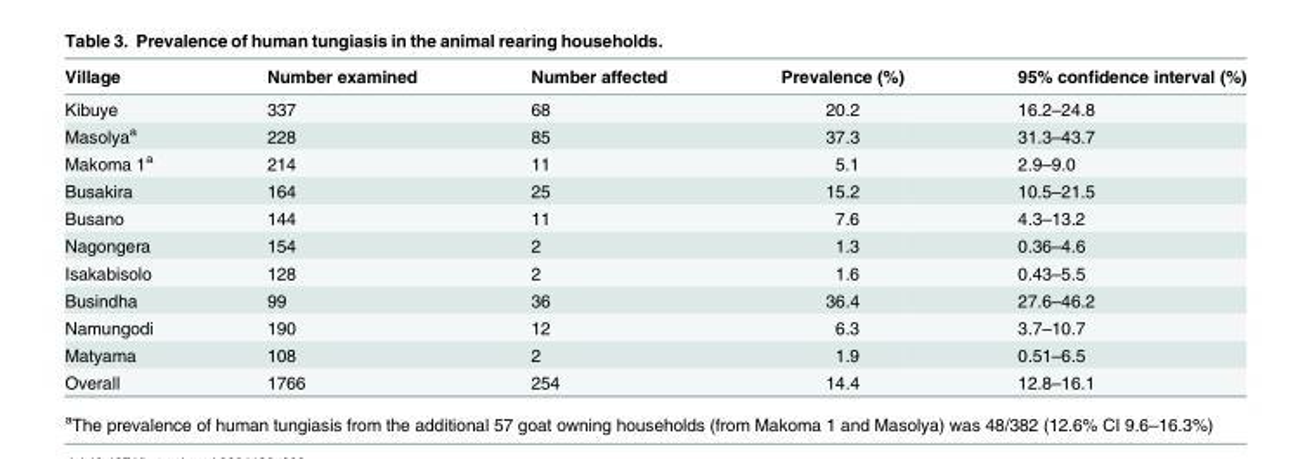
<table><thead><tr><td>Village</td><td>Number examined</td><td>Number affected</td><td>Prevalence (%)</td><td>95% confidence interval (%)</td></tr></thead><tbody><tr><td>Kibuye</td><td>337</td><td>68</td><td>20.2</td><td>16.2–24.8</td></tr><tr><td>Masolya<sup>a</sup></td><td>228</td><td>85</td><td>37.3</td><td>31.3–43.7</td></tr><tr><td>Makoma 1<sup>a</sup></td><td>214</td><td>11</td><td>5.1</td><td>2.9–9.0</td></tr><tr><td>Busakira</td><td>164</td><td>25</td><td>15.2</td><td>10.5–21.5</td></tr><tr><td>Busano</td><td>144</td><td>11</td><td>7.6</td><td>4.3–13.2</td></tr><tr><td>Nagongera</td><td>154</td><td>2</td><td>1.3</td><td>0.36–4.6</td></tr><tr><td>Isakabisolo</td><td>128</td><td>2</td><td>1.6</td><td>0.43–5.5</td></tr><tr><td>Busindha</td><td>99</td><td>36</td><td>36.4</td><td>27.6–46.2</td></tr><tr><td>Namungodi</td><td>190</td><td>12</td><td>6.3</td><td>3.7–10.7</td></tr><tr><td>Matyama</td><td>108</td><td>2</td><td>1.9</td><td>0.51–6.5</td></tr><tr><td>Overall</td><td>1766</td><td>254</td><td>14.4</td><td>12.8–16.1</td></tr></tbody></table>